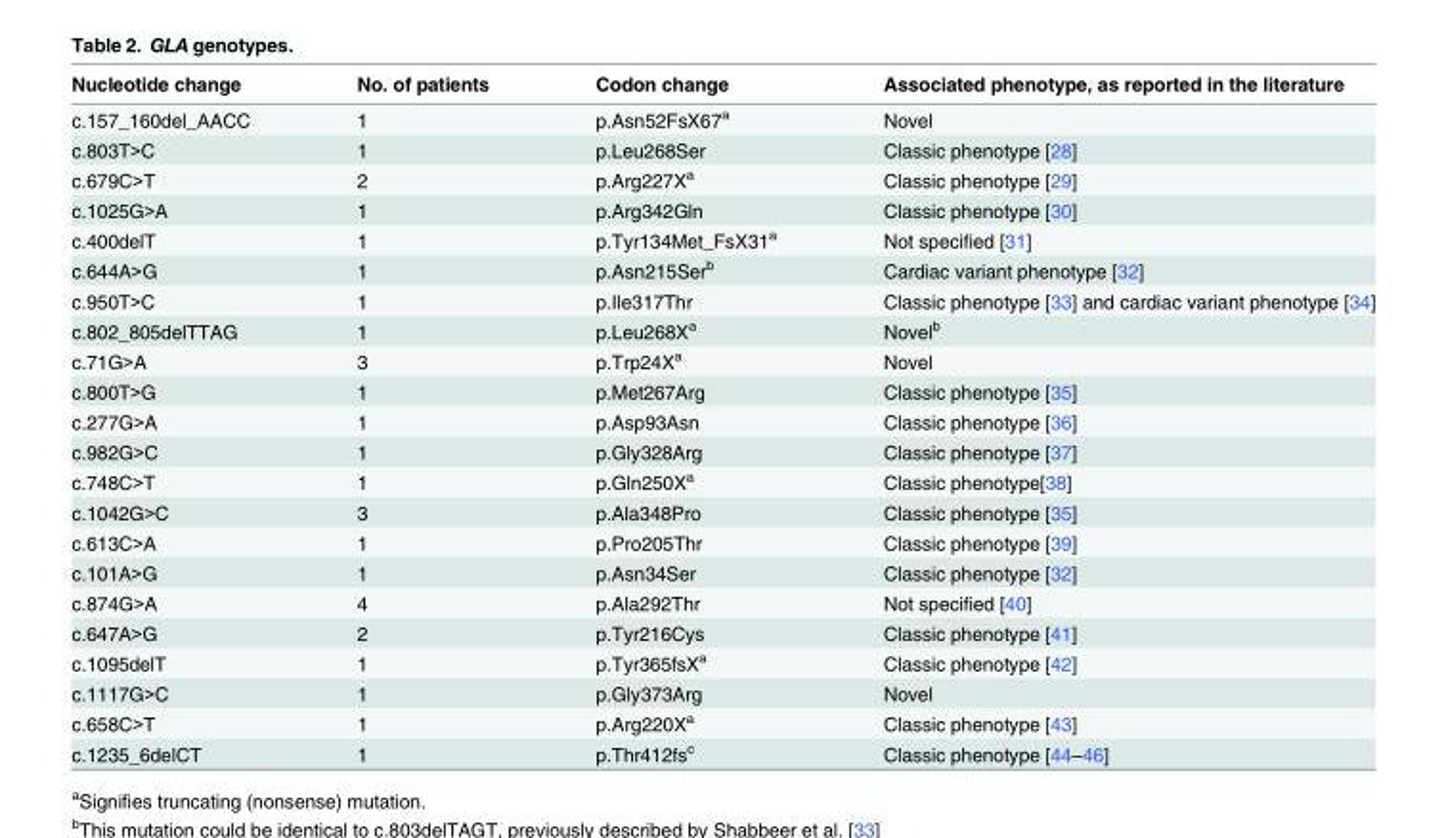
<table><thead><tr><td>Nucleotide change</td><td>No. of patients</td><td>Codon change</td><td>Associated phenotype, as reported in the literature</td></tr></thead><tbody><tr><td>c.157_160del_AACC</td><td>1</td><td>p.Asn52FsX67<sup>a</sup></td><td>Novel</td></tr><tr><td>c.803T&gt;C</td><td>1</td><td>p.Leu268Ser</td><td>Classic phenotype [28]</td></tr><tr><td>c.679C&gt;T</td><td>2</td><td>p.Arg227X<sup>a</sup></td><td>Classic phenotype [29]</td></tr><tr><td>c.1025G&gt;A</td><td>1</td><td>p.Arg342Gln</td><td>Classic phenotype [30]</td></tr><tr><td>c.400delT</td><td>1</td><td>p.Tyr134Met_FsX31<sup>a</sup></td><td>Not specified [31]</td></tr><tr><td>c.644A&gt;G</td><td>1</td><td>p.Asn215Ser<sup>b</sup></td><td>Cardiac variant phenotype [32]</td></tr><tr><td>c.950T&gt;C</td><td>1</td><td>p.Ile317Thr</td><td>Classic phenotype [33] and cardiac variant phenotype [34]</td></tr><tr><td>c.802_805delTTAG</td><td>1</td><td>p.Leu268X<sup>a</sup></td><td>Novel<sup>b</sup></td></tr><tr><td>c.71G&gt;A</td><td>3</td><td>p.Trp24X<sup>a</sup></td><td>Novel</td></tr><tr><td>c.800T&gt;G</td><td>1</td><td>p.Met267Arg</td><td>Classic phenotype [35]</td></tr><tr><td>c.277G&gt;A</td><td>1</td><td>p.Asp93Asn</td><td>Classic phenotype [36]</td></tr><tr><td>c.982G&gt;C</td><td>1</td><td>p.Gly328Arg</td><td>Classic phenotype [37]</td></tr><tr><td>c.748C&gt;T</td><td>1</td><td>p.Gln250X<sup>a</sup></td><td>Classic phenotype[38]</td></tr><tr><td>c.1042G&gt;C</td><td>3</td><td>p.Ala348Pro</td><td>Classic phenotype [35]</td></tr><tr><td>c.613C&gt;A</td><td>1</td><td>p.Pro205Thr</td><td>Classic phenotype [39]</td></tr><tr><td>c.101A&gt;G</td><td>1</td><td>p.Asn34Ser</td><td>Classic phenotype [32]</td></tr><tr><td>c.874G&gt;A</td><td>4</td><td>p.Ala292Thr</td><td>Not specified [40]</td></tr><tr><td>c.647A&gt;G</td><td>2</td><td>p.Tyr216Cys</td><td>Classic phenotype [41]</td></tr><tr><td>c.1095delT</td><td>1</td><td>p.Tyr365fsX<sup>a</sup></td><td>Classic phenotype [42]</td></tr><tr><td>c.1117G&gt;C</td><td>1</td><td>p.Gly373Arg</td><td>Novel</td></tr><tr><td>c.658C&gt;T</td><td>1</td><td>p.Arg220X<sup>a</sup></td><td>Classic phenotype [43]</td></tr><tr><td>c.1235_6delCT</td><td>1</td><td>p.Thr412fs<sup>c</sup></td><td>Classic phenotype [44–46]</td></tr></tbody></table>